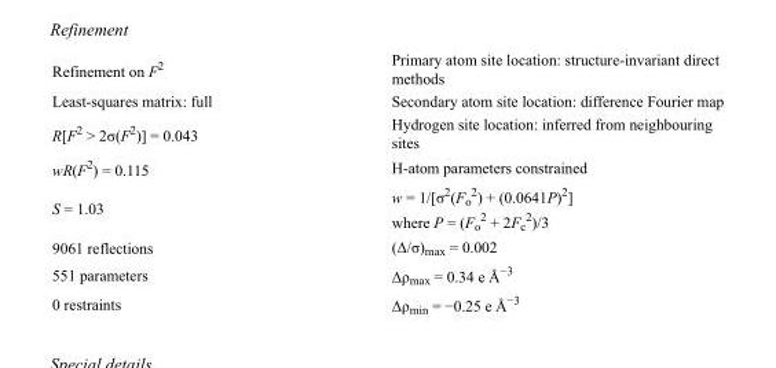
<table><tbody><tr><td>Refinement on F<sup>2</sup></td><td>Primary atom site location: structure-invariant direct methods</td></tr><tr><td>Least-squares matrix: full</td><td>Secondary atom site location: difference Fourier map</td></tr><tr><td>R[F<sup>2</sup> &gt; 2σ(F<sup>2</sup>)] = 0.043</td><td>Hydrogen site location: inferred from neighbouring sites</td></tr><tr><td>wR(F<sup>2</sup>) = 0.115</td><td>H-atom parameters constrained</td></tr><tr><td>S = 1.03</td><td>w = 1/[σ<sup>2</sup>(F<sub>o</sub> <sup>2</sup>) + (0.0641P)<sup>2</sup>] where P = (F<sub>o</sub> <sup>2</sup> + 2F<sub>c</sub> <sup>2</sup>)/3</td></tr><tr><td>9061 reflections</td><td>(Δ/σ)<sub>max</sub> = 0.002</td></tr><tr><td>551 parameters</td><td>Δρ<sub>max</sub> = 0.34 e Å<sup>−3</sup></td></tr><tr><td>0 restraints</td><td>Δρ<sub>min</sub> = −0.25 e Å<sup>−3</sup></td></tr></tbody></table>